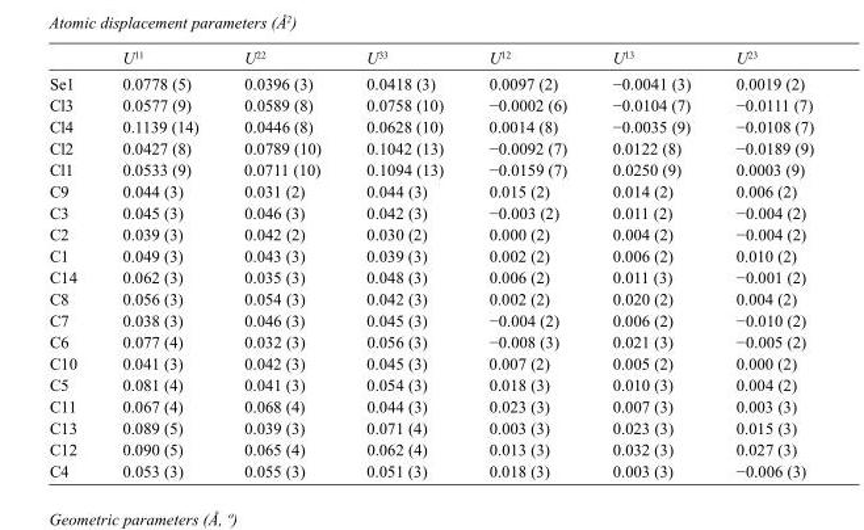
<table><thead><tr><td></td><td>U<sup>11</sup></td><td>U<sup>22</sup></td><td>U<sup>33</sup></td><td>U<sup>12</sup></td><td>U<sup>13</sup></td><td>U<sup>23</sup></td></tr></thead><tbody><tr><td>Se1</td><td>0.0778 (5)</td><td>0.0396 (3)</td><td>0.0418 (3)</td><td>0.0097 (2)</td><td>−0.0041 (3)</td><td>0.0019 (2)</td></tr><tr><td>Cl3</td><td>0.0577 (9)</td><td>0.0589 (8)</td><td>0.0758 (10)</td><td>−0.0002 (6)</td><td>−0.0104 (7)</td><td>−0.0111 (7)</td></tr><tr><td>Cl4</td><td>0.1139 (14)</td><td>0.0446 (8)</td><td>0.0628 (10)</td><td>0.0014 (8)</td><td>−0.0035 (9)</td><td>−0.0108 (7)</td></tr><tr><td>Cl2</td><td>0.0427 (8)</td><td>0.0789 (10)</td><td>0.1042 (13)</td><td>−0.0092 (7)</td><td>0.0122 (8)</td><td>−0.0189 (9)</td></tr><tr><td>Cl1</td><td>0.0533 (9)</td><td>0.0711 (10)</td><td>0.1094 (13)</td><td>−0.0159 (7)</td><td>0.0250 (9)</td><td>0.0003 (9)</td></tr><tr><td>C9</td><td>0.044 (3)</td><td>0.031 (2)</td><td>0.044 (3)</td><td>0.015 (2)</td><td>0.014 (2)</td><td>0.006 (2)</td></tr><tr><td>C3</td><td>0.045 (3)</td><td>0.046 (3)</td><td>0.042 (3)</td><td>−0.003 (2)</td><td>0.011 (2)</td><td>−0.004 (2)</td></tr><tr><td>C2</td><td>0.039 (3)</td><td>0.042 (2)</td><td>0.030 (2)</td><td>0.000 (2)</td><td>0.004 (2)</td><td>−0.004 (2)</td></tr><tr><td>C1</td><td>0.049 (3)</td><td>0.043 (3)</td><td>0.039 (3)</td><td>0.002 (2)</td><td>0.006 (2)</td><td>0.010 (2)</td></tr><tr><td>C14</td><td>0.062 (3)</td><td>0.035 (3)</td><td>0.048 (3)</td><td>0.006 (2)</td><td>0.011 (3)</td><td>−0.001 (2)</td></tr><tr><td>C8</td><td>0.056 (3)</td><td>0.054 (3)</td><td>0.042 (3)</td><td>0.002 (2)</td><td>0.020 (2)</td><td>0.004 (2)</td></tr><tr><td>C7</td><td>0.038 (3)</td><td>0.046 (3)</td><td>0.045 (3)</td><td>−0.004 (2)</td><td>0.006 (2)</td><td>−0.010 (2)</td></tr><tr><td>C6</td><td>0.077 (4)</td><td>0.032 (3)</td><td>0.056 (3)</td><td>−0.008 (3)</td><td>0.021 (3)</td><td>−0.005 (2)</td></tr><tr><td>C10</td><td>0.041 (3)</td><td>0.042 (3)</td><td>0.045 (3)</td><td>0.007 (2)</td><td>0.005 (2)</td><td>0.000 (2)</td></tr><tr><td>C5</td><td>0.081 (4)</td><td>0.041 (3)</td><td>0.054 (3)</td><td>0.018 (3)</td><td>0.010 (3)</td><td>0.004 (2)</td></tr><tr><td>C11</td><td>0.067 (4)</td><td>0.068 (4)</td><td>0.044 (3)</td><td>0.023 (3)</td><td>0.007 (3)</td><td>0.003 (3)</td></tr><tr><td>C13</td><td>0.089 (5)</td><td>0.039 (3)</td><td>0.071 (4)</td><td>0.003 (3)</td><td>0.023 (3)</td><td>0.015 (3)</td></tr><tr><td>C12</td><td>0.090 (5)</td><td>0.065 (4)</td><td>0.062 (4)</td><td>0.013 (3)</td><td>0.032 (3)</td><td>0.027 (3)</td></tr><tr><td>C4</td><td>0.053 (3)</td><td>0.055 (3)</td><td>0.051 (3)</td><td>0.018 (3)</td><td>0.003 (3)</td><td>−0.006 (3)</td></tr></tbody></table>